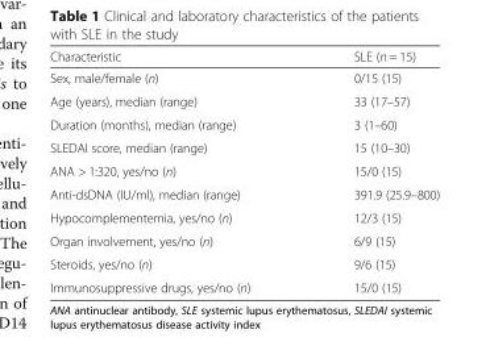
<table><thead><tr><td>Characteristic</td><td>SLE (n = 15)</td></tr></thead><tbody><tr><td>Sex, male/female (n)</td><td>0/15 (15)</td></tr><tr><td>Age (years), median (range)</td><td>33 (17–57)</td></tr><tr><td>Duration (months), median (range)</td><td>3 (1–60)</td></tr><tr><td>SLEDAI score, median (range)</td><td>15 (10–30)</td></tr><tr><td>ANA &gt; 1:320, yes/no (n)</td><td>15/0 (15)</td></tr><tr><td>Anti-dsDNA (IU/ml), median (range)</td><td>391.9 (25.9–800)</td></tr><tr><td>Hypocomplementemia, yes/no (n)</td><td>12/3 (15)</td></tr><tr><td>Organ involvement, yes/no (n)</td><td>6/9 (15)</td></tr><tr><td>Steroids, yes/no (n)</td><td>9/6 (15)</td></tr><tr><td>Immunosuppressive drugs, yes/no (n)</td><td>15/0 (15)</td></tr></tbody></table>